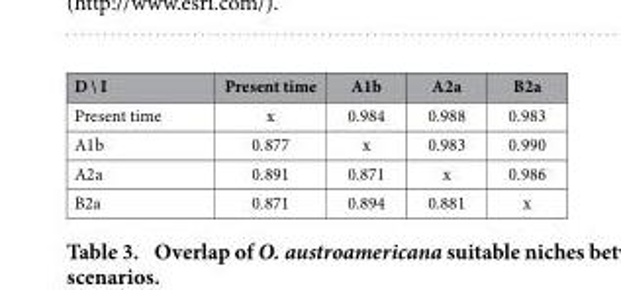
<table><thead><tr><td>D \ I</td><td>Present time</td><td>A1b</td><td>A2a</td><td>B2a</td></tr></thead><tbody><tr><td>Present time</td><td>x</td><td>0.984</td><td>0.988</td><td>0.983</td></tr><tr><td>A1b</td><td>0.877</td><td>x</td><td>0.983</td><td>0.990</td></tr><tr><td>A2a</td><td>0.891</td><td>0.871</td><td>x</td><td>0.986</td></tr><tr><td>B2a</td><td>0.871</td><td>0.894</td><td>0.881</td><td>x</td></tr></tbody></table>